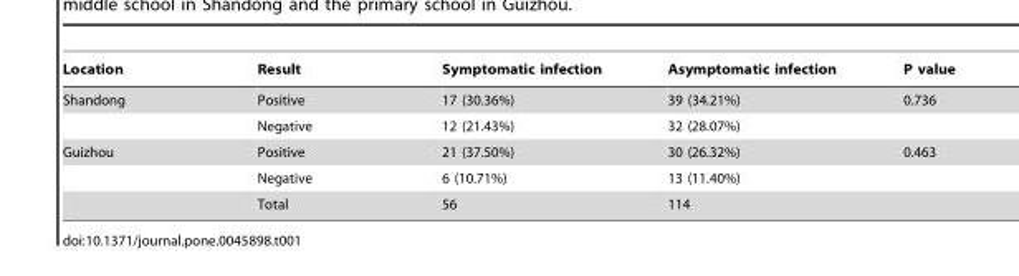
<table><thead><tr><td>Location</td><td>Result</td><td>Symptomatic infection</td><td>Asymptomatic infection</td><td>P value</td></tr></thead><tbody><tr><td rowspan="2">Shandong</td><td>Positive</td><td>17 (30.36%)</td><td>39 (34.21%)</td><td>0.736</td></tr><tr><td>Negative</td><td>12 (21.43%)</td><td>32 (28.07%)</td><td></td></tr><tr><td rowspan="3">Guizhou</td><td>Positive</td><td>21 (37.50%)</td><td>30 (26.32%)</td><td>0.463</td></tr><tr><td>Negative</td><td>6 (10.71%)</td><td>13 (11.40%)</td><td></td></tr><tr><td>Total</td><td>56</td><td>114</td><td></td></tr></tbody></table>